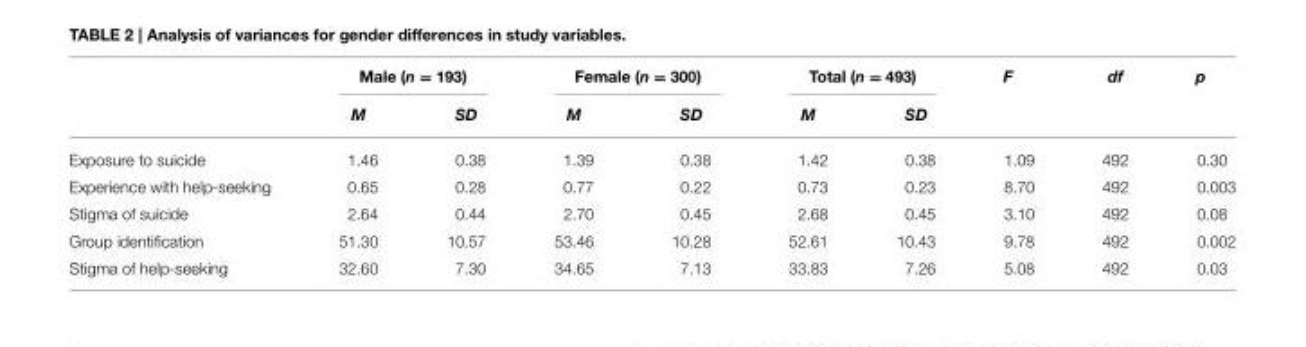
<table><thead><tr><td rowspan="2"></td><td colspan="2">Male (n = 193)</td><td colspan="2">Female (n = 300)</td><td colspan="2">Total (n = 493)</td><td rowspan="2">F</td><td rowspan="2">df</td><td rowspan="2">p</td></tr><tr><td>M</td><td>SD</td><td>M</td><td>SD</td><td>M</td><td>SD</td></tr></thead><tbody><tr><td>Exposure to suicide</td><td>1.46</td><td>0.38</td><td>1.39</td><td>0.38</td><td>1.42</td><td>0.38</td><td>1.09</td><td>492</td><td>0.30</td></tr><tr><td>Experience with help-seeking</td><td>0.65</td><td>0.28</td><td>0.77</td><td>0.22</td><td>0.73</td><td>0.23</td><td>8.70</td><td>492</td><td>0.003</td></tr><tr><td>Stigma of suicide</td><td>2.64</td><td>0.44</td><td>2.70</td><td>0.45</td><td>2.68</td><td>0.45</td><td>3.10</td><td>492</td><td>0.08</td></tr><tr><td>Group identification</td><td>51.30</td><td>10.57</td><td>53.46</td><td>10.28</td><td>52.61</td><td>10.43</td><td>9.78</td><td>492</td><td>0.002</td></tr><tr><td>Stigma of help-seeking</td><td>32.60</td><td>7.30</td><td>34.65</td><td>7.13</td><td>33.83</td><td>7.26</td><td>5.08</td><td>492</td><td>0.03</td></tr></tbody></table>